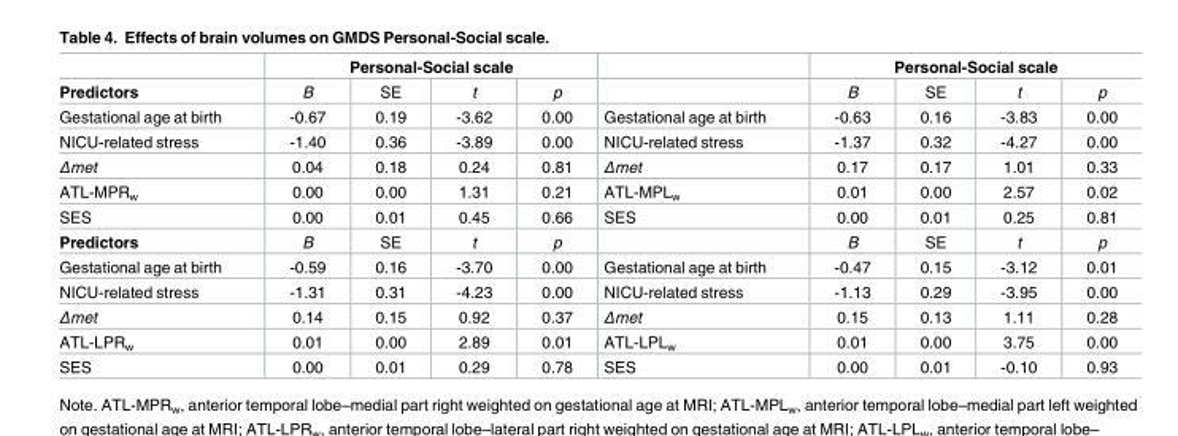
<table><thead><tr><td rowspan="2">Predictors</td><td colspan="4">Personal-Social scale</td><td rowspan="2"></td><td colspan="4">Personal-Social scale</td></tr><tr><td>B</td><td>SE</td><td>t</td><td>p</td><td>B</td><td>SE</td><td>t</td><td>p</td></tr></thead><tbody><tr><td>Gestational age at birth</td><td>-0.67</td><td>0.19</td><td>-3.62</td><td>0.00</td><td>Gestational age at birth</td><td>-0.63</td><td>0.16</td><td>-3.83</td><td>0.00</td></tr><tr><td>NICU-related stress</td><td>-1.40</td><td>0.36</td><td>-3.89</td><td>0.00</td><td>NICU-related stress</td><td>-1.37</td><td>0.32</td><td>-4.27</td><td>0.00</td></tr><tr><td>Δmet</td><td>0.04</td><td>0.18</td><td>0.24</td><td>0.81</td><td>Δmet</td><td>0.17</td><td>0.17</td><td>1.01</td><td>0.33</td></tr><tr><td>ATL-MPR<sub>w</sub></td><td>0.00</td><td>0.00</td><td>1.31</td><td>0.21</td><td>ATL-MPL<sub>w</sub></td><td>0.01</td><td>0.00</td><td>2.57</td><td>0.02</td></tr><tr><td>SES</td><td>0.00</td><td>0.01</td><td>0.45</td><td>0.66</td><td>SES</td><td>0.00</td><td>0.01</td><td>0.25</td><td>0.81</td></tr><tr><td>Predictors</td><td>B</td><td>SE</td><td>t</td><td>p</td><td></td><td>B</td><td>SE</td><td>t</td><td>p</td></tr><tr><td>Gestational age at birth</td><td>-0.59</td><td>0.16</td><td>-3.70</td><td>0.00</td><td>Gestational age at birth</td><td>-0.47</td><td>0.15</td><td>-3.12</td><td>0.01</td></tr><tr><td>NICU-related stress</td><td>-1.31</td><td>0.31</td><td>-4.23</td><td>0.00</td><td>NICU-related stress</td><td>-1.13</td><td>0.29</td><td>-3.95</td><td>0.00</td></tr><tr><td>Δmet</td><td>0.14</td><td>0.15</td><td>0.92</td><td>0.37</td><td>Δmet</td><td>0.15</td><td>0.13</td><td>1.11</td><td>0.28</td></tr><tr><td>ATL-LPR<sub>w</sub></td><td>0.01</td><td>0.00</td><td>2.89</td><td>0.01</td><td>ATL-LPL<sub>w</sub></td><td>0.01</td><td>0.00</td><td>3.75</td><td>0.00</td></tr><tr><td>SES</td><td>0.00</td><td>0.01</td><td>0.29</td><td>0.78</td><td>SES</td><td>0.00</td><td>0.01</td><td>-0.10</td><td>0.93</td></tr></tbody></table>